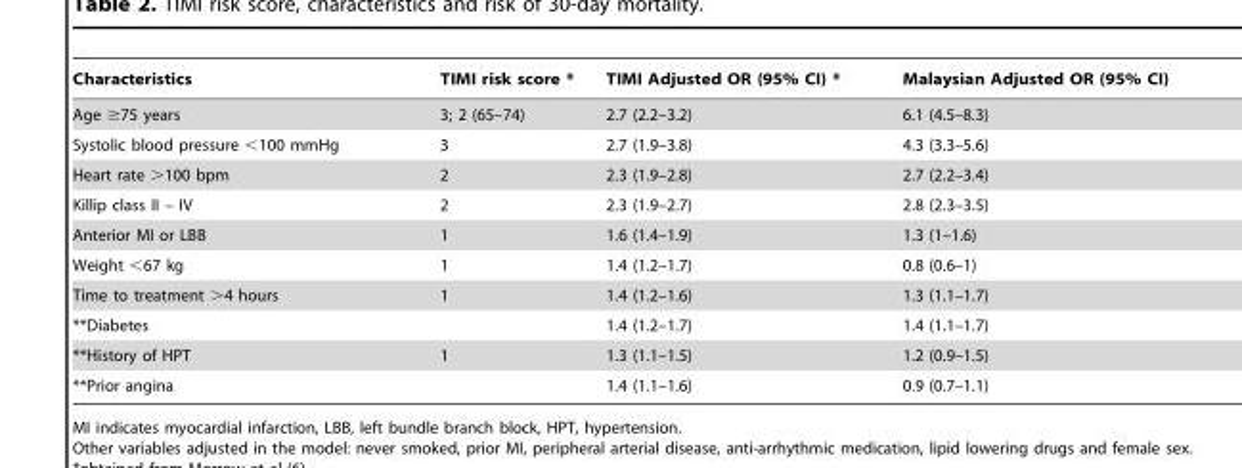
<table><thead><tr><td>Characteristics</td><td>TIMI risk score *</td><td>TIMI Adjusted OR (95% CI) *</td><td>Malaysian Adjusted OR (95% CI)</td></tr></thead><tbody><tr><td>Age ≥75 years</td><td>3; 2 (65–74)</td><td>2.7 (2.2–3.2)</td><td>6.1 (4.5–8.3)</td></tr><tr><td>Systolic blood pressure &lt;100 mmHg</td><td>3</td><td>2.7 (1.9–3.8)</td><td>4.3 (3.3–5.6)</td></tr><tr><td>Heart rate &gt;100 bpm</td><td>2</td><td>2.3 (1.9–2.8)</td><td>2.7 (2.2–3.4)</td></tr><tr><td>Killip class II – IV</td><td>2</td><td>2.3 (1.9–2.7)</td><td>2.8 (2.3–3.5)</td></tr><tr><td>Anterior MI or LBB</td><td>1</td><td>1.6 (1.4–1.9)</td><td>1.3 (1–1.6)</td></tr><tr><td>Weight &lt;67 kg</td><td>1</td><td>1.4 (1.2–1.7)</td><td>0.8 (0.6–1)</td></tr><tr><td>Time to treatment &gt;4 hours</td><td>1</td><td>1.4 (1.2–1.6)</td><td>1.3 (1.1–1.7)</td></tr><tr><td>**Diabetes</td><td></td><td>1.4 (1.2–1.7)</td><td>1.4 (1.1–1.7)</td></tr><tr><td>**History of HPT</td><td>1</td><td>1.3 (1.1–1.5)</td><td>1.2 (0.9–1.5)</td></tr><tr><td>**Prior angina</td><td></td><td>1.4 (1.1–1.6)</td><td>0.9 (0.7–1.1)</td></tr></tbody></table>